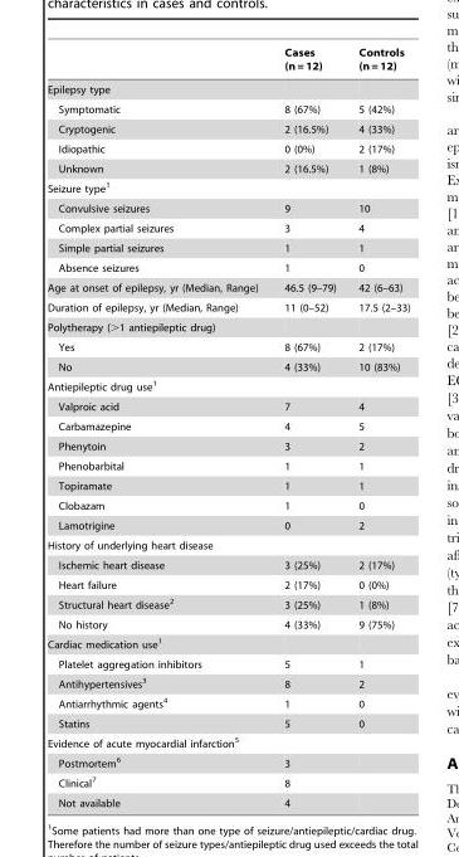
<table><thead><tr><td></td><td>Cases (n = 12)</td><td>Controls (n = 12)</td></tr></thead><tbody><tr><td colspan="3">Epilepsy type</td></tr><tr><td>Symptomatic</td><td>8 (67%)</td><td>5 (42%)</td></tr><tr><td>Cryptogenic</td><td>2 (16.5%)</td><td>4 (33%)</td></tr><tr><td>Idiopathic</td><td>0 (0%)</td><td>2 (17%)</td></tr><tr><td>Unknown</td><td>2 (16.5%)</td><td>1 (8%)</td></tr><tr><td colspan="3">Seizure type<sup>1</sup></td></tr><tr><td>Convulsive seizures</td><td>9</td><td>10</td></tr><tr><td>Complex partial seizures</td><td>3</td><td>4</td></tr><tr><td>Simple partial seizures</td><td>1</td><td>1</td></tr><tr><td>Absence seizures</td><td>1</td><td>0</td></tr><tr><td>Age at onset of epilepsy, yr (Median, Range)</td><td>46.5 (9–79)</td><td>42 (6–63)</td></tr><tr><td>Duration of epilepsy, yr (Median, Range)</td><td>11 (0–52)</td><td>17.5 (2–33)</td></tr><tr><td colspan="3">Polytherapy (&gt;1 antiepileptic drug)</td></tr><tr><td>Yes</td><td>8 (67%)</td><td>2 (17%)</td></tr><tr><td>No</td><td>4 (33%)</td><td>10 (83%)</td></tr><tr><td colspan="3">Antiepileptic drug use<sup>1</sup></td></tr><tr><td>Valproic acid</td><td>7</td><td>4</td></tr><tr><td>Carbamazepine</td><td>4</td><td>5</td></tr><tr><td>Phenytoin</td><td>3</td><td>2</td></tr><tr><td>Phenobarbital</td><td>1</td><td>1</td></tr><tr><td>Topiramate</td><td>1</td><td>1</td></tr><tr><td>Clobazam</td><td>1</td><td>0</td></tr><tr><td>Lamotrigine</td><td>0</td><td>2</td></tr><tr><td colspan="3">History of underlying heart disease</td></tr><tr><td>Ischemic heart disease</td><td>3 (25%)</td><td>2 (17%)</td></tr><tr><td>Heart failure</td><td>2 (17%)</td><td>0 (0%)</td></tr><tr><td>Structural heart disease<sup>2</sup></td><td>3 (25%)</td><td>1 (8%)</td></tr><tr><td>No history</td><td>4 (33%)</td><td>9 (75%)</td></tr><tr><td colspan="3">Cardiac medication use<sup>1</sup></td></tr><tr><td>Platelet aggregation inhibitors</td><td>5</td><td>1</td></tr><tr><td>Antihypertensives<sup>3</sup></td><td>8</td><td>2</td></tr><tr><td>Antiarrhythmic agents<sup>4</sup></td><td>1</td><td>0</td></tr><tr><td>Statins</td><td>5</td><td>0</td></tr><tr><td colspan="3">Evidence of acute myocardial infarction<sup>5</sup></td></tr><tr><td>Postmortem<sup>6</sup></td><td>3</td><td></td></tr><tr><td>Clinical<sup>7</sup></td><td>8</td><td></td></tr><tr><td>Not available</td><td>4</td><td></td></tr></tbody></table>